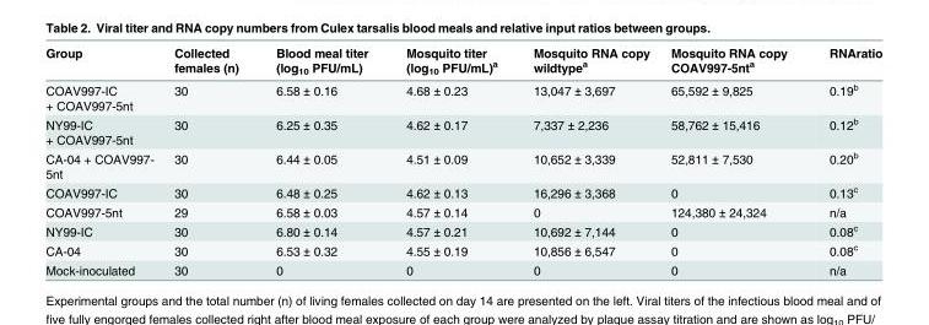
<table><thead><tr><td>Group</td><td>Collected females (n)</td><td>Blood meal titer (log<sub>10</sub> PFU/mL)</td><td>Mosquito titer (log<sub>10</sub> PFU/mL)<sup>a</sup></td><td>Mosquito RNA copy wildtype<sup>a</sup></td><td>Mosquito RNA copy COAV997-5nt<sup>a</sup></td><td>RNAratio</td></tr></thead><tbody><tr><td>COAV997-IC + COAV997-5nt</td><td>30</td><td>6.58 ± 0.16</td><td>4.68 ± 0.23</td><td>13,047 ± 3,697</td><td>65,592 ± 9,825</td><td>0.19<sup>b</sup></td></tr><tr><td>NY99-IC + COAV997-5nt</td><td>30</td><td>6.25 ± 0.35</td><td>4.62 ± 0.17</td><td>7,337 ± 2,236</td><td>58,762 ± 15,416</td><td>0.12<sup>b</sup></td></tr><tr><td>CA-04 + COAV997- 5nt</td><td>30</td><td>6.44 ± 0.05</td><td>4.51 ± 0.09</td><td>10,652 ± 3,339</td><td>52,811 ± 7,530</td><td>0.20<sup>b</sup></td></tr><tr><td>COAV997-IC</td><td>30</td><td>6.48 ± 0.25</td><td>4.62 ± 0.13</td><td>16,296 ± 3,368</td><td>0</td><td>0.13<sup>c</sup></td></tr><tr><td>COAV997-5nt</td><td>29</td><td>6.58 ± 0.03</td><td>4.57 ± 0.14</td><td>0</td><td>124,380 ± 24,324</td><td>n/a</td></tr><tr><td>NY99-IC</td><td>30</td><td>6.80 ± 0.14</td><td>4.57 ± 0.21</td><td>10,692 ± 7,144</td><td>0</td><td>0.08<sup>c</sup></td></tr><tr><td>CA-04</td><td>30</td><td>6.53 ± 0.32</td><td>4.55 ± 0.19</td><td>10,856 ± 6,547</td><td>0</td><td>0.08<sup>c</sup></td></tr><tr><td>Mock-inoculated</td><td>30</td><td>0</td><td>0</td><td>0</td><td>0</td><td>n/a</td></tr></tbody></table>